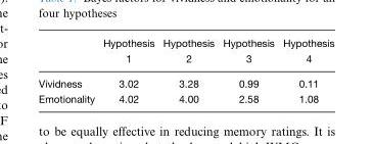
<table><thead><tr><td></td><td>Hypothesis 1</td><td>Hypothesis 2</td><td>Hypothesis 3</td><td>Hypothesis 4</td></tr></thead><tbody><tr><td>Vividness</td><td>3.02</td><td>3.28</td><td>0.99</td><td>0.11</td></tr><tr><td>Emotionality</td><td>4.02</td><td>4.00</td><td>2.58</td><td>1.08</td></tr></tbody></table>